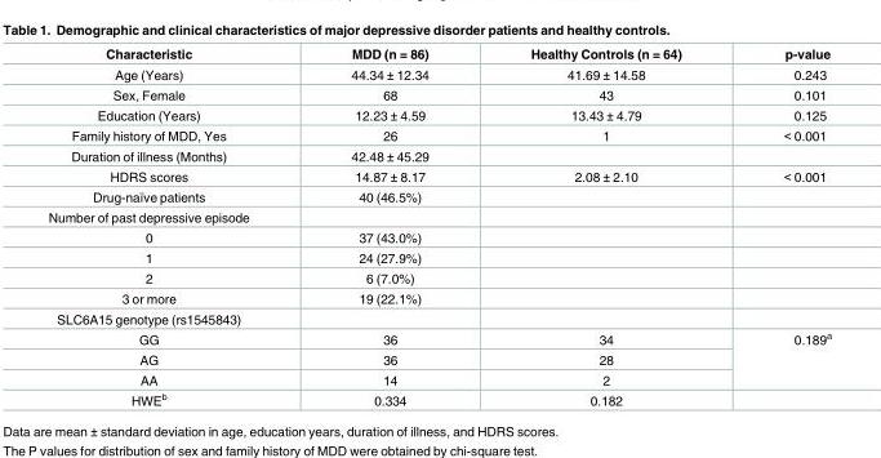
<table><thead><tr><td>Characteristic</td><td>MDD (n = 86)</td><td>Healthy Controls (n = 64)</td><td>p-value</td></tr></thead><tbody><tr><td>Age (Years)</td><td>44.34 ± 12.34</td><td>41.69 ± 14.58</td><td>0.243</td></tr><tr><td>Sex, Female</td><td>68</td><td>43</td><td>0.101</td></tr><tr><td>Education (Years)</td><td>12.23 ± 4.59</td><td>13.43 ± 4.79</td><td>0.125</td></tr><tr><td>Family history of MDD, Yes</td><td>26</td><td>1</td><td>&lt; 0.001</td></tr><tr><td>Duration of illness (Months)</td><td>42.48 ± 45.29</td><td></td><td></td></tr><tr><td>HDRS scores</td><td>14.87 ± 8.17</td><td>2.08 ± 2.10</td><td>&lt; 0.001</td></tr><tr><td>Drug-naïve patients</td><td>40 (46.5%)</td><td></td><td></td></tr><tr><td colspan="4">Number of past depressive episode</td></tr><tr><td>0</td><td>37 (43.0%)</td><td></td><td></td></tr><tr><td>1</td><td>24 (27.9%)</td><td></td><td></td></tr><tr><td>2</td><td>6 (7.0%)</td><td></td><td></td></tr><tr><td>3 or more</td><td>19 (22.1%)</td><td></td><td></td></tr><tr><td colspan="4">SLC6A15 genotype (rs1545843)</td></tr><tr><td>GG</td><td>36</td><td>34</td><td rowspan="3">0.189<sup>a</sup></td></tr><tr><td>AG</td><td>36</td><td>28</td></tr><tr><td>AA</td><td>14</td><td>2</td></tr><tr><td>HWE<sup>b</sup></td><td>0.334</td><td>0.182</td><td></td></tr></tbody></table>